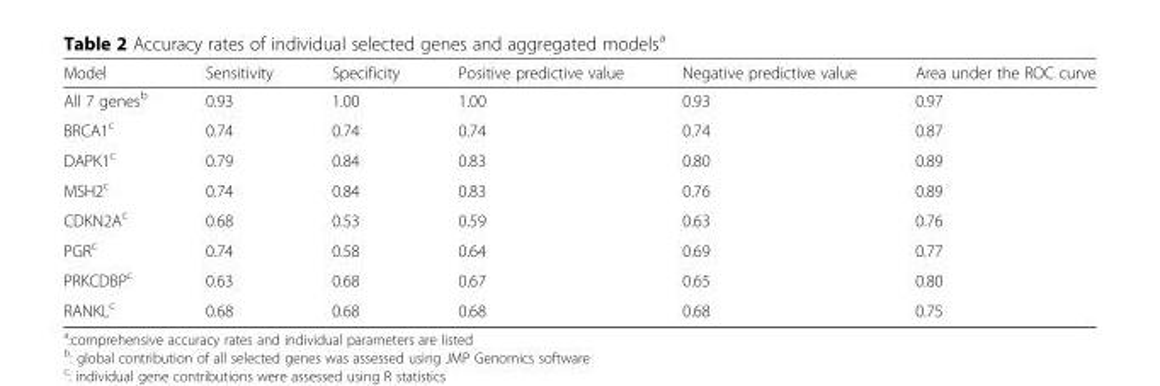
<table><thead><tr><td>Model</td><td>Sensitivity</td><td>Specificity</td><td>Positive predictive value</td><td>Negative predictive value</td><td>Area under the ROC curve</td></tr></thead><tbody><tr><td>All 7 genes<sup>b</sup></td><td>0.93</td><td>1.00</td><td>1.00</td><td>0.93</td><td>0.97</td></tr><tr><td>BRCA1<sup>c</sup></td><td>0.74</td><td>0.74</td><td>0.74</td><td>0.74</td><td>0.87</td></tr><tr><td>DAPK1<sup>c</sup></td><td>0.79</td><td>0.84</td><td>0.83</td><td>0.80</td><td>0.89</td></tr><tr><td>MSH2<sup>c</sup></td><td>0.74</td><td>0.84</td><td>0.83</td><td>0.76</td><td>0.89</td></tr><tr><td>CDKN2A<sup>c</sup></td><td>0.68</td><td>0.53</td><td>0.59</td><td>0.63</td><td>0.76</td></tr><tr><td>PGR<sup>c</sup></td><td>0.74</td><td>0.58</td><td>0.64</td><td>0.69</td><td>0.77</td></tr><tr><td>PRKCDBP<sup>c</sup></td><td>0.63</td><td>0.68</td><td>0.67</td><td>0.65</td><td>0.80</td></tr><tr><td>RANKL<sup>c</sup></td><td>0.68</td><td>0.68</td><td>0.68</td><td>0.68</td><td>0.75</td></tr></tbody></table>